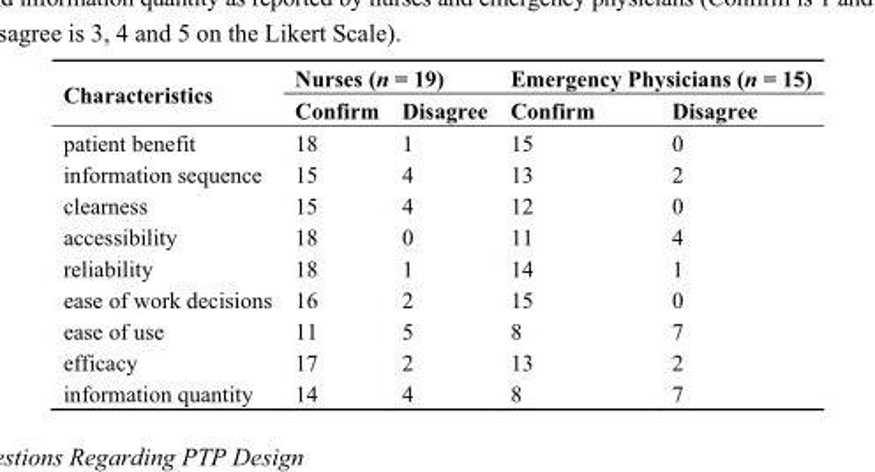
<table><thead><tr><td rowspan="2">Characteristics</td><td colspan="2">Nurses (n = 19)</td><td colspan="2">Emergency Physicians (n = 15)</td></tr><tr><td>Confirm</td><td>Disagree</td><td>Confirm</td><td>Disagree</td></tr></thead><tbody><tr><td>patient benefit</td><td>18</td><td>1</td><td>15</td><td>0</td></tr><tr><td>information sequence</td><td>15</td><td>4</td><td>13</td><td>2</td></tr><tr><td>clearness</td><td>15</td><td>4</td><td>12</td><td>0</td></tr><tr><td>accessibility</td><td>18</td><td>0</td><td>11</td><td>4</td></tr><tr><td>reliability</td><td>18</td><td>1</td><td>14</td><td>1</td></tr><tr><td>ease of work decisions</td><td>16</td><td>2</td><td>15</td><td>0</td></tr><tr><td>ease of use</td><td>11</td><td>5</td><td>8</td><td>7</td></tr><tr><td>efficacy</td><td>17</td><td>2</td><td>13</td><td>2</td></tr><tr><td>information quantity</td><td>14</td><td>4</td><td>8</td><td>7</td></tr></tbody></table>